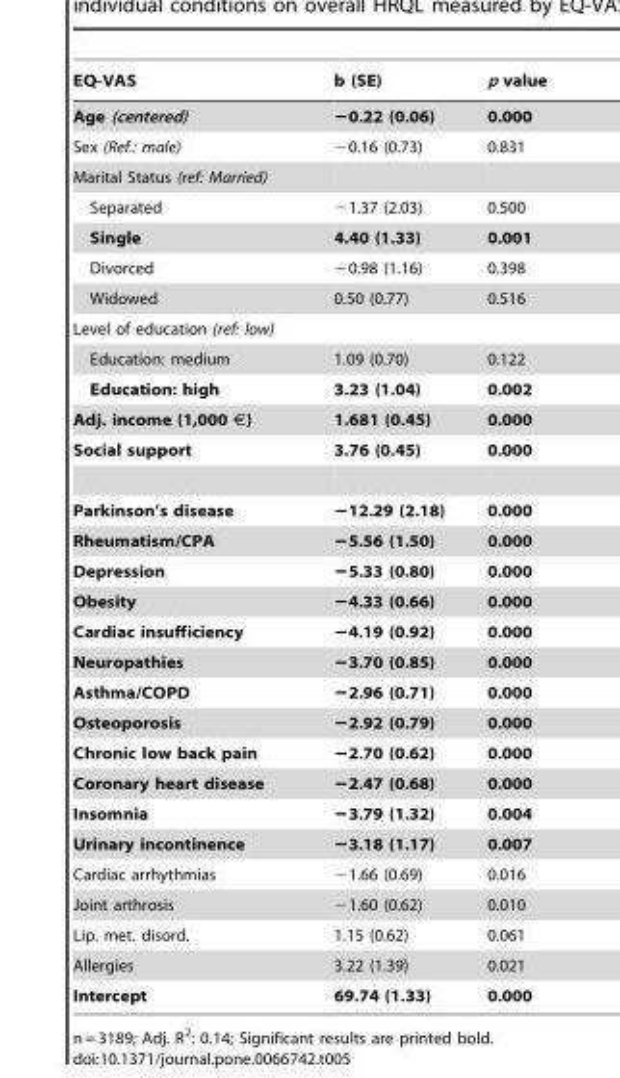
<table><thead><tr><td>EQ-VAS</td><td>b (SE)</td><td>p value</td></tr></thead><tbody><tr><td>Age (centered)</td><td>−0.22 (0.06)</td><td>0.000</td></tr><tr><td>Sex (Ref.: male)</td><td>−0.16 (0.73)</td><td>0.831</td></tr><tr><td colspan="3">Marital Status (ref: Married)</td></tr><tr><td>Separated</td><td>−1.37 (2.03)</td><td>0.500</td></tr><tr><td>Single</td><td>4.40 (1.33)</td><td>0.001</td></tr><tr><td>Divorced</td><td>−0.98 (1.16)</td><td>0.398</td></tr><tr><td>Widowed</td><td>0.50 (0.77)</td><td>0.516</td></tr><tr><td colspan="3">Level of education (ref: low)</td></tr><tr><td>Education: medium</td><td>1.09 (0.70)</td><td>0.122</td></tr><tr><td>Education: high</td><td>3.23 (1.04)</td><td>0.002</td></tr><tr><td>Adj. income (1,000 €)</td><td>1.681 (0.45)</td><td>0.000</td></tr><tr><td>Social support</td><td>3.76 (0.45)</td><td>0.000</td></tr><tr><td>Parkinson’s disease</td><td>−12.29 (2.18)</td><td>0.000</td></tr><tr><td>Rheumatism/CPA</td><td>−5.56 (1.50)</td><td>0.000</td></tr><tr><td>Depression</td><td>−5.33 (0.80)</td><td>0.000</td></tr><tr><td>Obesity</td><td>−4.33 (0.66)</td><td>0.000</td></tr><tr><td>Cardiac insufficiency</td><td>−4.19 (0.92)</td><td>0.000</td></tr><tr><td>Neuropathies</td><td>−3.70 (0.85)</td><td>0.000</td></tr><tr><td>Asthma/COPD</td><td>−2.96 (0.71)</td><td>0.000</td></tr><tr><td>Osteoporosis</td><td>−2.92 (0.79)</td><td>0.000</td></tr><tr><td>Chronic low back pain</td><td>−2.70 (0.62)</td><td>0.000</td></tr><tr><td>Coronary heart disease</td><td>−2.47 (0.68)</td><td>0.000</td></tr><tr><td>Insomnia</td><td>−3.79 (1.32)</td><td>0.004</td></tr><tr><td>Urinary incontinence</td><td>−3.18 (1.17)</td><td>0.007</td></tr><tr><td>Cardiac arrhythmias</td><td>−1.66 (0.69)</td><td>0.016</td></tr><tr><td>Joint arthrosis</td><td>−1.60 (0.62)</td><td>0.010</td></tr><tr><td>Lip. met. disord.</td><td>1.15 (0.62)</td><td>0.061</td></tr><tr><td>Allergies</td><td>3.22 (1.39)</td><td>0.021</td></tr><tr><td>Intercept</td><td>69.74 (1.33)</td><td>0.000</td></tr></tbody></table>